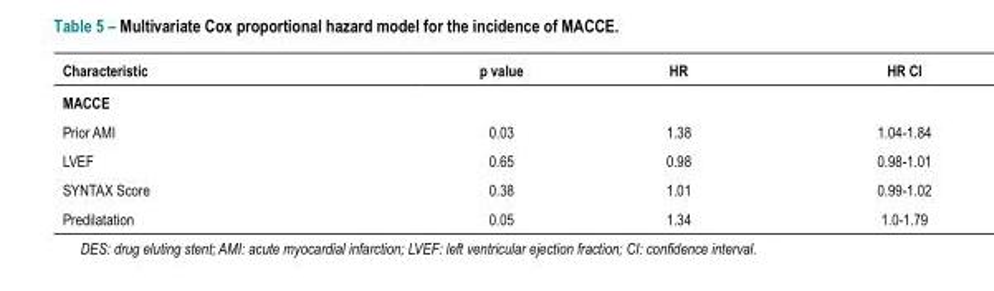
<table><thead><tr><td>Characteristic</td><td>p value</td><td>HR</td><td>HR CI</td></tr></thead><tbody><tr><td colspan="4">MACCE</td></tr><tr><td>Prior AMI</td><td>0.03</td><td>1.38</td><td>1.04-1.84</td></tr><tr><td>LVEF</td><td>0.65</td><td>0.98</td><td>0.98-1.01</td></tr><tr><td>SYNTAX Score</td><td>0.38</td><td>1.01</td><td>0.99-1.02</td></tr><tr><td>Predilatation</td><td>0.05</td><td>1.34</td><td>1.0-1.79</td></tr></tbody></table>